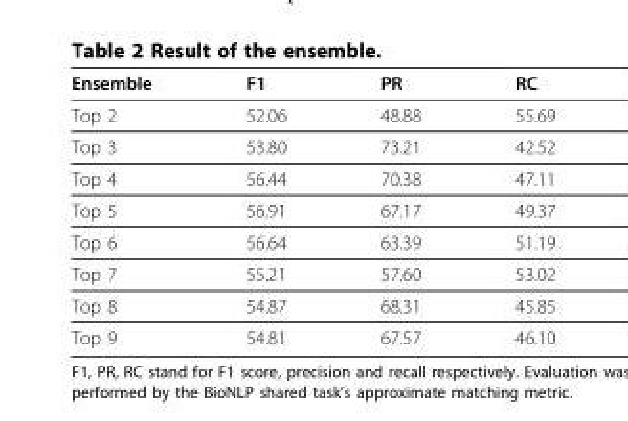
<table><thead><tr><td>Ensemble</td><td>F1</td><td>PR</td><td>RC</td></tr></thead><tbody><tr><td>Top 2</td><td>52.06</td><td>48.88</td><td>55.69</td></tr><tr><td>Top 3</td><td>53.80</td><td>73.21</td><td>42.52</td></tr><tr><td>Top 4</td><td>56.44</td><td>70.38</td><td>47.11</td></tr><tr><td>Top 5</td><td>56.91</td><td>67.17</td><td>49.37</td></tr><tr><td>Top 6</td><td>56.64</td><td>63.39</td><td>51.19</td></tr><tr><td>Top 7</td><td>55.21</td><td>57.60</td><td>53.02</td></tr><tr><td>Top 8</td><td>54.87</td><td>68.31</td><td>45.85</td></tr><tr><td>Top 9</td><td>54.81</td><td>67.57</td><td>46.10</td></tr></tbody></table>